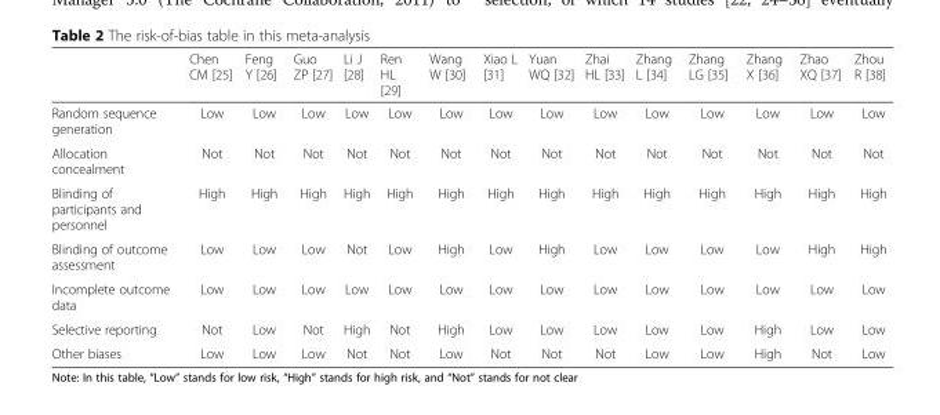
<table><thead><tr><td></td><td>Chen CM [25]</td><td>Feng Y [26]</td><td>Guo ZP [27]</td><td>Li J [28]</td><td>Ren HL [29]</td><td>Wang W [30]</td><td>Xiao L [31]</td><td>Yuan WQ [32]</td><td>Zhai HL [33]</td><td>Zhang L [34]</td><td>Zhang LG [35]</td><td>Zhang X [36]</td><td>Zhao XQ [37]</td><td>Zhou R [38]</td></tr></thead><tbody><tr><td>Random sequence generation</td><td>Low</td><td>Low</td><td>Low</td><td>Low</td><td>Low</td><td>Low</td><td>Low</td><td>Low</td><td>Low</td><td>Low</td><td>Low</td><td>Low</td><td>Low</td><td>Low</td></tr><tr><td>Allocation concealment</td><td>Not</td><td>Not</td><td>Not</td><td>Not</td><td>Not</td><td>Not</td><td>Not</td><td>Not</td><td>Not</td><td>Not</td><td>Not</td><td>Not</td><td>Not</td><td>Not</td></tr><tr><td>Blinding of participants and personnel</td><td>High</td><td>High</td><td>High</td><td>High</td><td>High</td><td>High</td><td>High</td><td>High</td><td>High</td><td>High</td><td>High</td><td>High</td><td>High</td><td>High</td></tr><tr><td>Blinding of outcome assessment</td><td>Low</td><td>Low</td><td>Low</td><td>Not</td><td>Low</td><td>High</td><td>Low</td><td>High</td><td>Low</td><td>Low</td><td>Low</td><td>Low</td><td>High</td><td>High</td></tr><tr><td>Incomplete outcome data</td><td>Low</td><td>Low</td><td>Low</td><td>Low</td><td>Low</td><td>Low</td><td>Low</td><td>Low</td><td>Low</td><td>Low</td><td>Low</td><td>Low</td><td>Low</td><td>Low</td></tr><tr><td>Selective reporting</td><td>Not</td><td>Low</td><td>Not</td><td>High</td><td>Not</td><td>High</td><td>Low</td><td>Low</td><td>Low</td><td>Low</td><td>Low</td><td>High</td><td>Low</td><td>Low</td></tr><tr><td>Other biases</td><td>Low</td><td>Low</td><td>Low</td><td>Not</td><td>Not</td><td>Low</td><td>Not</td><td>Not</td><td>Not</td><td>Low</td><td>Low</td><td>High</td><td>Not</td><td>Low</td></tr></tbody></table>